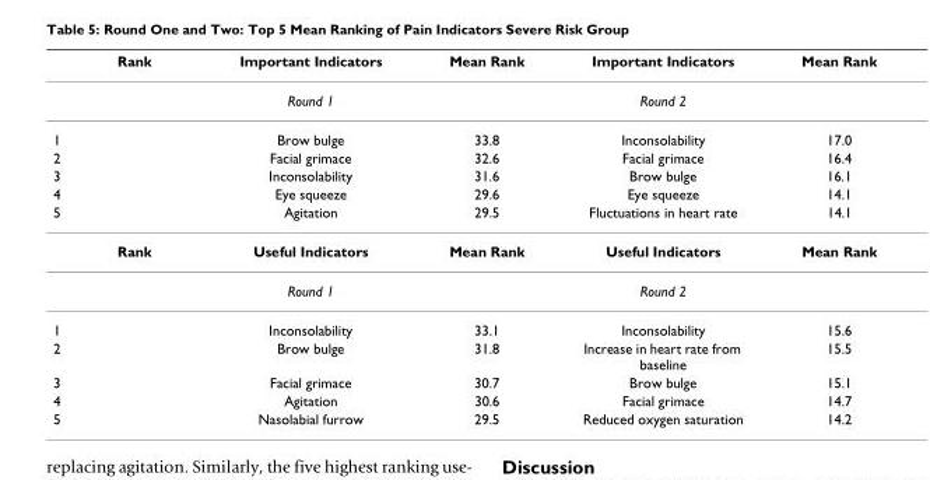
<table><thead><tr><td>Rank</td><td>Important Indicators</td><td>Mean Rank</td><td>Important Indicators</td><td>Mean Rank</td></tr></thead><tbody><tr><td></td><td>Round 1</td><td></td><td>Round 2</td><td></td></tr><tr><td>1</td><td>Brow bulge</td><td>33.8</td><td>Inconsolability</td><td>17.0</td></tr><tr><td>2</td><td>Facial grimace</td><td>32.6</td><td>Facial grimace</td><td>16.4</td></tr><tr><td>3</td><td>Inconsolability</td><td>31.6</td><td>Brow bulge</td><td>16.1</td></tr><tr><td>4</td><td>Eye squeeze</td><td>29.6</td><td>Eye squeeze</td><td>14.1</td></tr><tr><td>5</td><td>Agitation</td><td>29.5</td><td>Fluctuations in heart rate</td><td>14.1</td></tr><tr><td rowspan="2">Rank</td><td>Useful Indicators</td><td>Mean Rank</td><td>Useful Indicators</td><td>Mean Rank</td></tr><tr><td>Round 1</td><td></td><td>Round 2</td><td></td></tr><tr><td>1</td><td>Inconsolability</td><td>33.1</td><td>Inconsolability</td><td>15.6</td></tr><tr><td>2</td><td>Brow bulge</td><td>31.8</td><td>Increase in heart rate from baseline</td><td>15.5</td></tr><tr><td>3</td><td>Facial grimace</td><td>30.7</td><td>Brow bulge</td><td>15.1</td></tr><tr><td>4</td><td>Agitation</td><td>30.6</td><td>Facial grimace</td><td>14.7</td></tr><tr><td>5</td><td>Nasolabial furrow</td><td>29.5</td><td>Reduced oxygen saturation</td><td>14.2</td></tr></tbody></table>